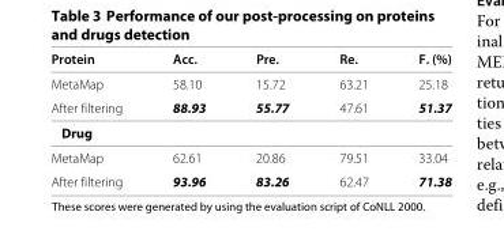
<table><thead><tr><td>Protein</td><td>Acc.</td><td>Pre.</td><td>Re.</td><td>F. (%)</td></tr></thead><tbody><tr><td>MetaMap</td><td>58.10</td><td>15.72</td><td>63.21</td><td>25.18</td></tr><tr><td>After filtering</td><td>88.93</td><td>55.77</td><td>47.61</td><td>51.37</td></tr><tr><td colspan="5">Drug</td></tr><tr><td>MetaMap</td><td>62.61</td><td>20.86</td><td>79.51</td><td>33.04</td></tr><tr><td>After filtering</td><td>93.96</td><td>83.26</td><td>62.47</td><td>71.38</td></tr></tbody></table>